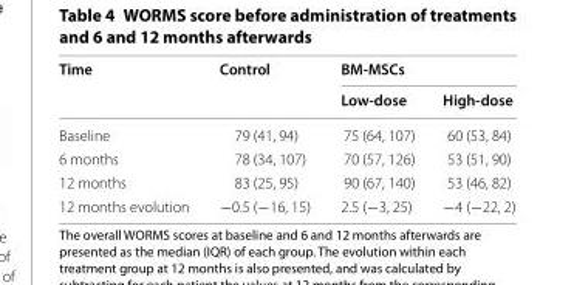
<table><thead><tr><td rowspan="2">Time</td><td rowspan="2">Control</td><td colspan="2">BM-MSCs</td></tr><tr><td>Low-dose</td><td>High-dose</td></tr></thead><tbody><tr><td>Baseline</td><td>79 (41, 94)</td><td>75 (64, 107)</td><td>60 (53, 84)</td></tr><tr><td>6 months</td><td>78 (34, 107)</td><td>70 (57, 126)</td><td>53 (51, 90)</td></tr><tr><td>12 months</td><td>83 (25, 95)</td><td>90 (67, 140)</td><td>53 (46, 82)</td></tr><tr><td>12 months evolution</td><td>−0.5 (−16, 15)</td><td>2.5 (−3, 25)</td><td>−4 (−22, 2)</td></tr></tbody></table>